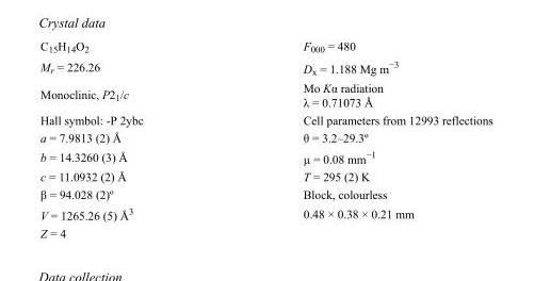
<table><tbody><tr><td>C<sub>15</sub>H<sub>14</sub>O<sub>2</sub></td><td>F<sub>000</sub> = 480</td></tr><tr><td>M<sub>r</sub> = 226.26</td><td>D<sub>x</sub> = 1.188 Mg m<sup>−3</sup></td></tr><tr><td>Monoclinic, P2<sub>1</sub>/c</td><td>Mo Kα radiation λ = 0.71073 Å</td></tr><tr><td>Hall symbol: -P 2ybc</td><td>Cell parameters from 12993 reflections</td></tr><tr><td>a = 7.9813 (2) Å</td><td>θ = 3.2–29.3º</td></tr><tr><td>b = 14.3260 (3) Å</td><td>µ = 0.08 mm<sup>−1</sup></td></tr><tr><td>c = 11.0932 (2) Å</td><td>T = 295 (2) K</td></tr><tr><td>β = 94.028 (2)º</td><td>Block, colourless</td></tr><tr><td>V = 1265.26 (5) Å<sup>3</sup></td><td>0.48 × 0.38 × 0.21 mm</td></tr><tr><td>Z = 4</td><td></td></tr></tbody></table>